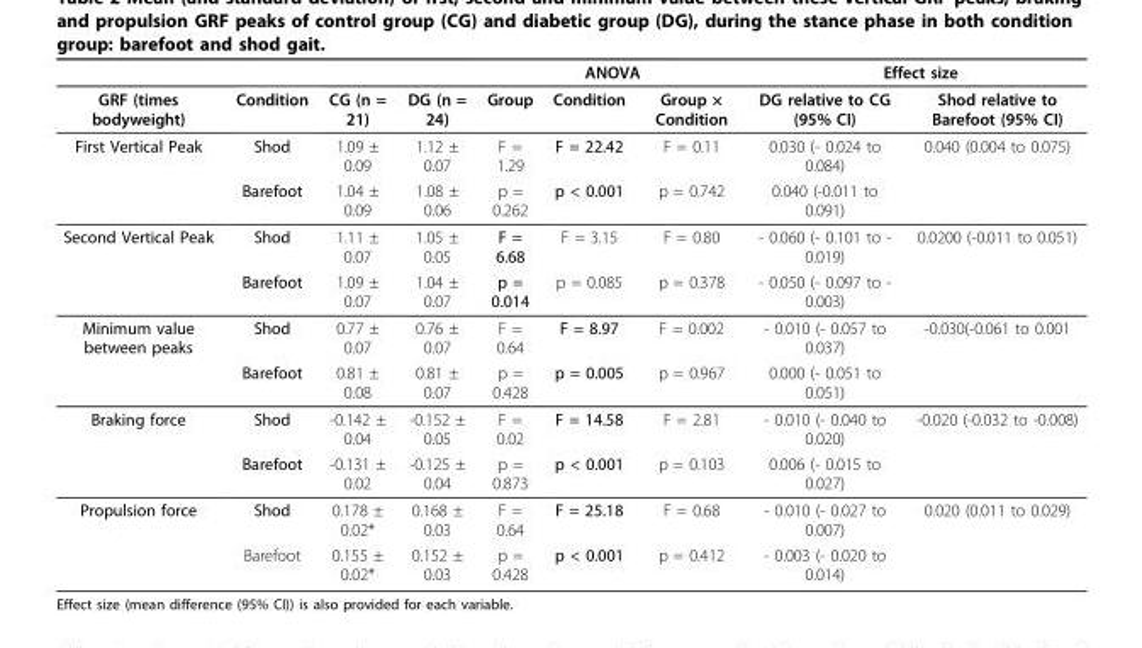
<table><thead><tr><td rowspan="2">GRF (times bodyweight)</td><td rowspan="2">Condition</td><td rowspan="2">CG (n = 21)</td><td rowspan="2">DG (n = 24)</td><td colspan="3">ANOVA</td><td colspan="2">Effect size</td></tr><tr><td>Group</td><td>Condition</td><td>Group × Condition</td><td>DG relative to CG (95% CI)</td><td>Shod relative to Barefoot (95% CI)</td></tr></thead><tbody><tr><td rowspan="2">First Vertical Peak</td><td>Shod</td><td>1.09 ± 0.09</td><td>1.12 ± 0.07</td><td>F = 1.29</td><td>F = 22.42</td><td>F = 0.11</td><td>0.030 (- 0.024 to 0.084)</td><td>0.040 (0.004 to 0.075)</td></tr><tr><td>Barefoot</td><td>1.04 ± 0.09</td><td>1.08 ± 0.06</td><td>p = 0.262</td><td>p &lt; 0.001</td><td>p = 0.742</td><td>0.040 (-0.011 to 0.091)</td><td></td></tr><tr><td rowspan="2">Second Vertical Peak</td><td>Shod</td><td>1.11 ± 0.07</td><td>1.05 ± 0.05</td><td>F = 6.68</td><td>F = 3.15</td><td>F = 0.80</td><td>- 0.060 (- 0.101 to - 0.019)</td><td>0.0200 (-0.011 to 0.051)</td></tr><tr><td>Barefoot</td><td>1.09 ± 0.07</td><td>1.04 ± 0.07</td><td>p = 0.014</td><td>p = 0.085</td><td>p = 0.378</td><td>- 0.050 (- 0.097 to - 0.003)</td><td></td></tr><tr><td rowspan="2">Minimum value between peaks</td><td>Shod</td><td>0.77 ± 0.07</td><td>0.76 ± 0.07</td><td>F = 0.64</td><td>F = 8.97</td><td>F = 0.002</td><td>- 0.010 (- 0.057 to 0.037)</td><td>-0.030(-0.061 to 0.001</td></tr><tr><td>Barefoot</td><td>0.81 ± 0.08</td><td>0.81 ± 0.07</td><td>p = 0.428</td><td>p = 0.005</td><td>p = 0.967</td><td>0.000 (- 0.051 to 0.051)</td><td></td></tr><tr><td rowspan="2">Braking force</td><td>Shod</td><td>-0.142 ± 0.04</td><td>-0.152 ± 0.05</td><td>F = 0.02</td><td>F = 14.58</td><td>F = 2.81</td><td>- 0.010 (- 0.040 to 0.020)</td><td>-0.020 (-0.032 to -0.008)</td></tr><tr><td>Barefoot</td><td>-0.131 ± 0.02</td><td>-0.125 ± 0.04</td><td>p = 0.873</td><td>p &lt; 0.001</td><td>p = 0.103</td><td>0.006 (- 0.015 to 0.027)</td><td></td></tr><tr><td rowspan="2">Propulsion force</td><td>Shod</td><td>0.178 ± 0.02*</td><td>0.168 ± 0.03</td><td>F = 0.64</td><td>F = 25.18</td><td>F = 0.68</td><td>- 0.010 (- 0.027 to 0.007)</td><td>0.020 (0.011 to 0.029)</td></tr><tr><td>Barefoot</td><td>0.155 ± 0.02*</td><td>0.152 ± 0.03</td><td>p = 0.428</td><td>p &lt; 0.001</td><td>p = 0.412</td><td>- 0.003 (- 0.020 to 0.014)</td><td></td></tr></tbody></table>